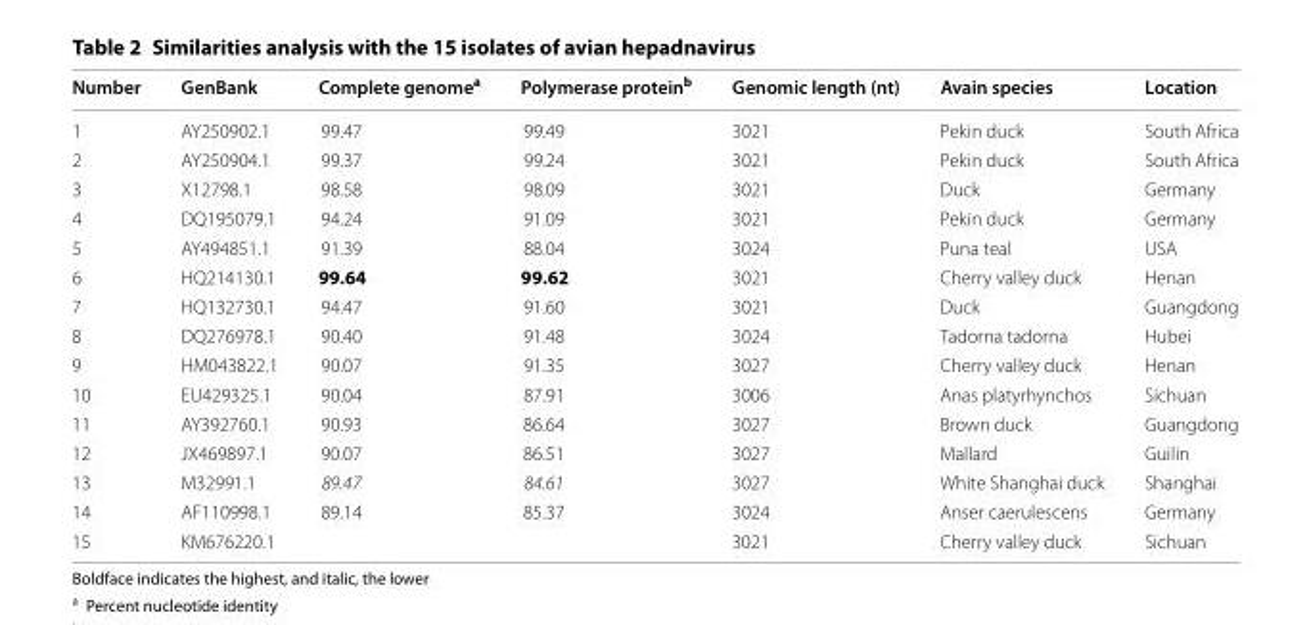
<table><thead><tr><td>Number</td><td>GenBank</td><td>Complete genome<sup>a</sup></td><td>Polymerase protein<sup>b</sup></td><td>Genomic length (nt)</td><td>Avain species</td><td>Location</td></tr></thead><tbody><tr><td>1</td><td>AY250902.1</td><td>99.47</td><td>99.49</td><td>3021</td><td>Pekin duck</td><td>South Africa</td></tr><tr><td>2</td><td>AY250904.1</td><td>99.37</td><td>99.24</td><td>3021</td><td>Pekin duck</td><td>South Africa</td></tr><tr><td>3</td><td>X12798.1</td><td>98.58</td><td>98.09</td><td>3021</td><td>Duck</td><td>Germany</td></tr><tr><td>4</td><td>DQ195079.1</td><td>94.24</td><td>91.09</td><td>3021</td><td>Pekin duck</td><td>Germany</td></tr><tr><td>5</td><td>AY494851.1</td><td>91.39</td><td>88.04</td><td>3024</td><td>Puna teal</td><td>USA</td></tr><tr><td>6</td><td>HQ214130.1</td><td>99.64</td><td>99.62</td><td>3021</td><td>Cherry valley duck</td><td>Henan</td></tr><tr><td>7</td><td>HQ132730.1</td><td>94.47</td><td>91.60</td><td>3021</td><td>Duck</td><td>Guangdong</td></tr><tr><td>8</td><td>DQ276978.1</td><td>90.40</td><td>91.48</td><td>3024</td><td>Tadorna tadorna</td><td>Hubei</td></tr><tr><td>9</td><td>HM043822.1</td><td>90.07</td><td>91.35</td><td>3027</td><td>Cherry valley duck</td><td>Henan</td></tr><tr><td>10</td><td>EU429325.1</td><td>90.04</td><td>87.91</td><td>3006</td><td>Anas platyrhynchos</td><td>Sichuan</td></tr><tr><td>11</td><td>AY392760.1</td><td>90.93</td><td>86.64</td><td>3027</td><td>Brown duck</td><td>Guangdong</td></tr><tr><td>12</td><td>JX469897.1</td><td>90.07</td><td>86.51</td><td>3027</td><td>Mallard</td><td>Guilin</td></tr><tr><td>13</td><td>M32991.1</td><td>89.47</td><td>84.61</td><td>3027</td><td>White Shanghai duck</td><td>Shanghai</td></tr><tr><td>14</td><td>AF110998.1</td><td>89.14</td><td>85.37</td><td>3024</td><td>Anser caerulescens</td><td>Germany</td></tr><tr><td>15</td><td>KM676220.1</td><td></td><td></td><td>3021</td><td>Cherry valley duck</td><td>Sichuan</td></tr></tbody></table>